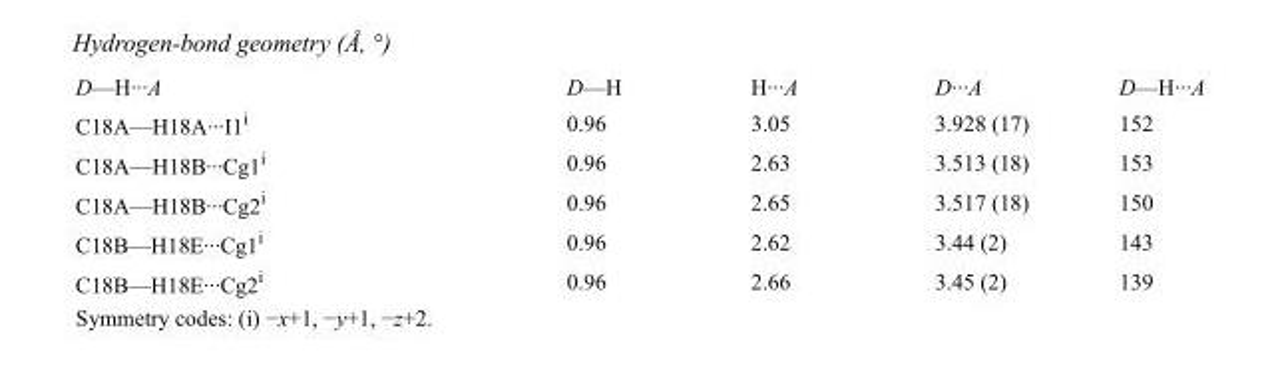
<table><tbody><tr><td>D—H···A</td><td>D—H</td><td>H···A</td><td>D···A</td><td>D—H···A</td></tr><tr><td>C18A—H18A···I1<sup>i</sup></td><td>0.96</td><td>3.05</td><td>3.928 (17)</td><td>152</td></tr><tr><td>C18A—H18B···Cg1<sup>i</sup></td><td>0.96</td><td>2.63</td><td>3.513 (18)</td><td>153</td></tr><tr><td>C18A—H18B···Cg2<sup>i</sup></td><td>0.96</td><td>2.65</td><td>3.517 (18)</td><td>150</td></tr><tr><td>C18B—H18E···Cg1<sup>i</sup></td><td>0.96</td><td>2.62</td><td>3.44 (2)</td><td>143</td></tr><tr><td>C18B—H18E···Cg2<sup>i</sup></td><td>0.96</td><td>2.66</td><td>3.45 (2)</td><td>139</td></tr></tbody></table>